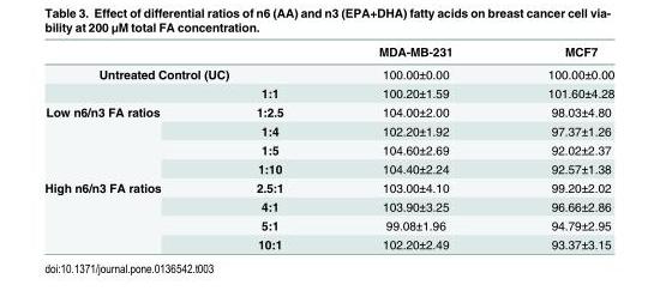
<table><thead><tr><td></td><td></td><td>MDA-MB-231</td><td>MCF7</td></tr></thead><tbody><tr><td colspan="2">Untreated Control (UC)</td><td>100.00±0.00</td><td>100.00±0.00</td></tr><tr><td></td><td>1:1</td><td>100.20±1.59</td><td>101.60±4.28</td></tr><tr><td rowspan="4">Low n6/n3 FA ratios</td><td>1:2.5</td><td>104.00±2.00</td><td>98.03±4.80</td></tr><tr><td>1:4</td><td>102.20±1.92</td><td>97.37±1.26</td></tr><tr><td>1:5</td><td>104.60±2.69</td><td>92.02±2.37</td></tr><tr><td>1:10</td><td>104.40±2.24</td><td>92.57±1.38</td></tr><tr><td rowspan="4">High n6/n3 FA ratios</td><td>2.5:1</td><td>103.00±4.10</td><td>99.20±2.02</td></tr><tr><td>4:1</td><td>103.90±3.25</td><td>96.66±2.86</td></tr><tr><td>5:1</td><td>99.08±1.96</td><td>94.79±2.95</td></tr><tr><td>10:1</td><td>102.20±2.49</td><td>93.37±3.15</td></tr></tbody></table>